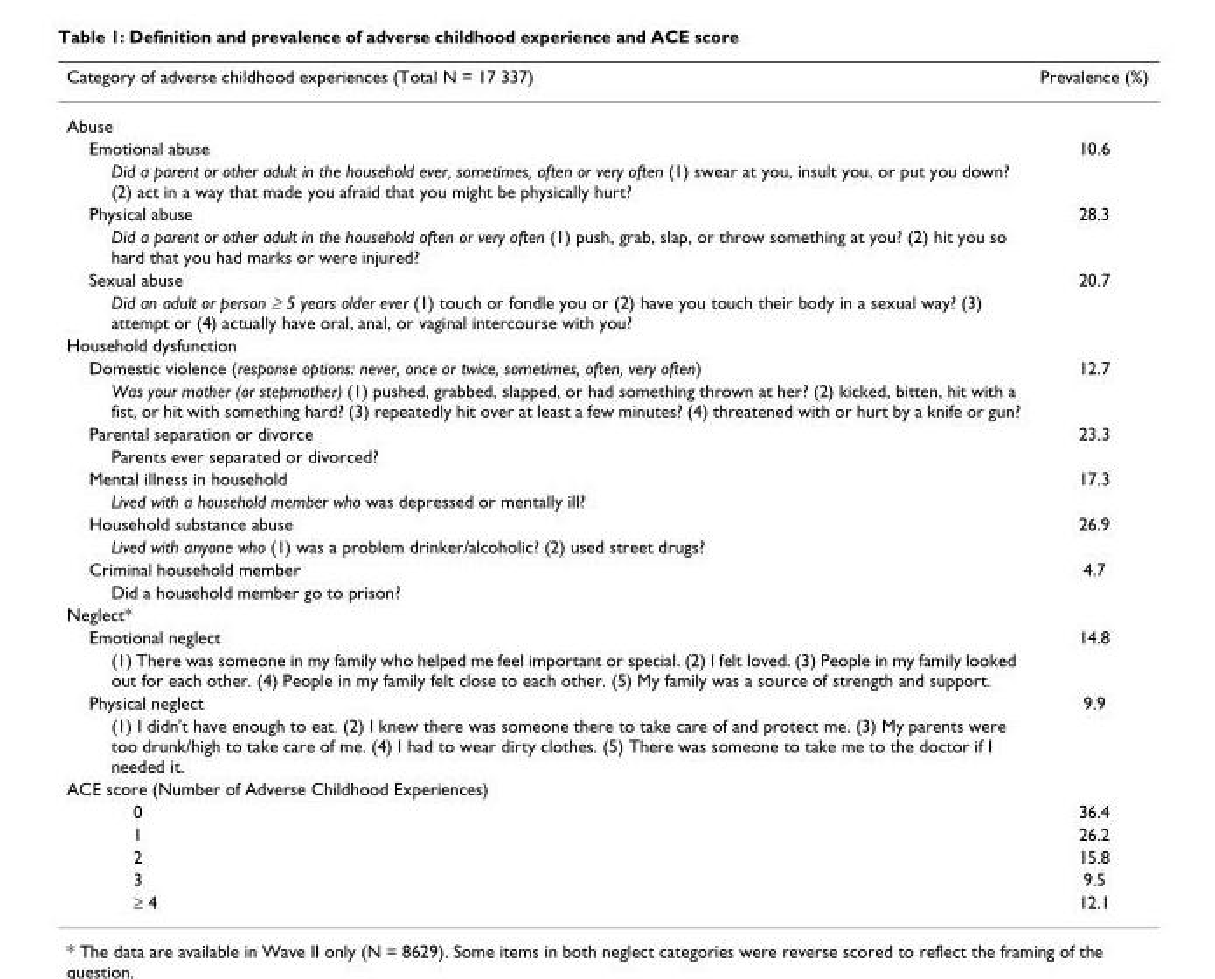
<table><thead><tr><td>Category of adverse childhood experiences (Total N = 17 337)</td><td>Prevalence (%)</td></tr></thead><tbody><tr><td colspan="2">Abuse</td></tr><tr><td>Emotional abuse</td><td>10.6</td></tr><tr><td colspan="2">Did a parent or other adult in the household ever, sometimes, often or very often (1) swear at you, insult you, or put you down? (2) act in a way that made you afraid that you might be physically hurt?</td></tr><tr><td>Physical abuse</td><td>28.3</td></tr><tr><td colspan="2">Did a parent or other adult in the household often or very often (1) push, grab, slap, or throw something at you? (2) hit you so hard that you had marks or were injured?</td></tr><tr><td>Sexual abuse</td><td>20.7</td></tr><tr><td colspan="2">Did an adult or person ≥ 5 years older ever (1) touch or fondle you or (2) have you touch their body in a sexual way? (3) attempt or (4) actually have oral, anal, or vaginal intercourse with you?</td></tr><tr><td colspan="2">Household dysfunction</td></tr><tr><td>Domestic violence (response options: never, once or twice, sometimes, often, very often)</td><td>12.7</td></tr><tr><td colspan="2">Was your mother (or stepmother) (1) pushed, grabbed, slapped, or had something thrown at her? (2) kicked, bitten, hit with a fist, or hit with something hard? (3) repeatedly hit over at least a few minutes? (4) threatened with or hurt by a knife or gun?</td></tr><tr><td>Parental separation or divorce</td><td>23.3</td></tr><tr><td colspan="2">Parents ever separated or divorced?</td></tr><tr><td>Mental illness in household</td><td>17.3</td></tr><tr><td colspan="2">Lived with a household member who was depressed or mentally ill?</td></tr><tr><td>Household substance abuse</td><td>26.9</td></tr><tr><td colspan="2">Lived with anyone who (1) was a problem drinker/alcoholic? (2) used street drugs?</td></tr><tr><td>Criminal household member</td><td>4.7</td></tr><tr><td colspan="2">Did a household member go to prison?</td></tr><tr><td colspan="2">Neglect*</td></tr><tr><td>Emotional neglect</td><td>14.8</td></tr><tr><td colspan="2">(1) There was someone in my family who helped me feel important or special. (2) I felt loved. (3) People in my family looked out for each other. (4) People in my family felt close to each other. (5) My family was a source of strength and support.</td></tr><tr><td>Physical neglect</td><td>9.9</td></tr><tr><td colspan="2">(1) I didn&#x27;t have enough to eat. (2) I knew there was someone there to take care of and protect me. (3) My parents were too drunk/high to take care of me. (4) I had to wear dirty clothes. (5) There was someone to take me to the doctor if I needed it.</td></tr><tr><td colspan="2">ACE score (Number of Adverse Childhood Experiences)</td></tr><tr><td>0</td><td>36.4</td></tr><tr><td>1</td><td>26.2</td></tr><tr><td>2</td><td>15.8</td></tr><tr><td>3</td><td>9.5</td></tr><tr><td>≥ 4</td><td>12.1</td></tr></tbody></table>